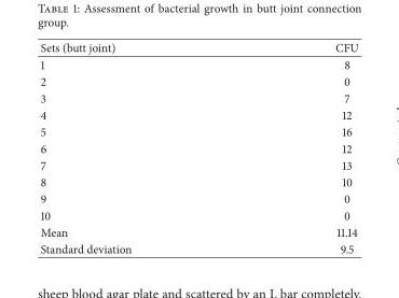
<table><thead><tr><td>Sets (butt joint)</td><td>CFU</td></tr></thead><tbody><tr><td>1</td><td>8</td></tr><tr><td>2</td><td>0</td></tr><tr><td>3</td><td>7</td></tr><tr><td>4</td><td>12</td></tr><tr><td>5</td><td>16</td></tr><tr><td>6</td><td>12</td></tr><tr><td>7</td><td>13</td></tr><tr><td>8</td><td>10</td></tr><tr><td>9</td><td>0</td></tr><tr><td>10</td><td>0</td></tr><tr><td>Mean</td><td>11.14</td></tr><tr><td>Standard deviation</td><td>9.5</td></tr></tbody></table>